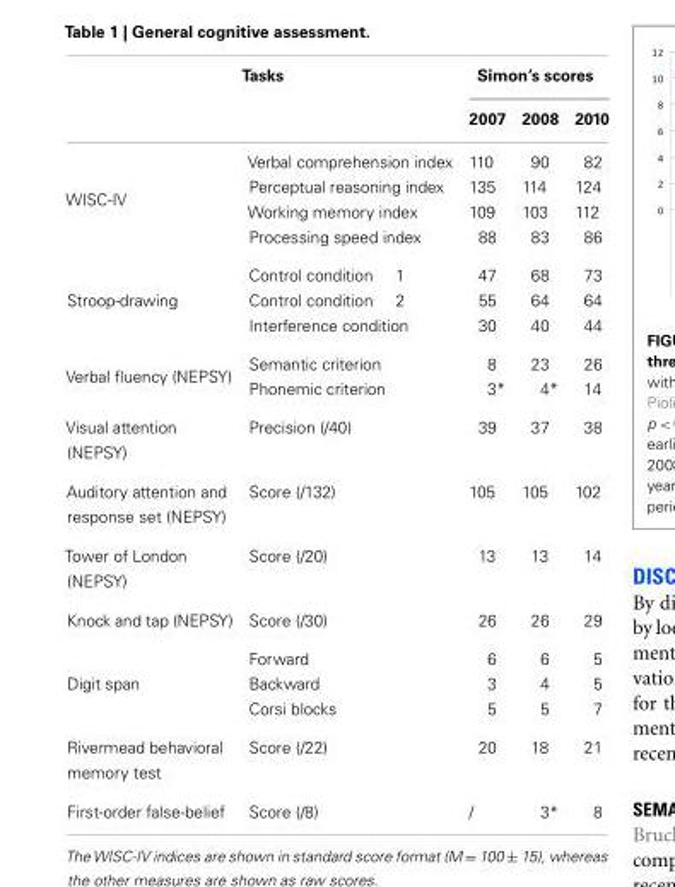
<table><thead><tr><td colspan="2">Tasks</td><td colspan="3">Simon’s scores</td></tr><tr><td></td><td></td><td>2007</td><td>2008</td><td>2010</td></tr></thead><tbody><tr><td rowspan="4">WISC-IV</td><td>Verbal comprehension index</td><td>110</td><td>90</td><td>82</td></tr><tr><td>Perceptual reasoning index</td><td>135</td><td>114</td><td>124</td></tr><tr><td>Working memory index</td><td>109</td><td>103</td><td>112</td></tr><tr><td>Processing speed index</td><td>88</td><td>83</td><td>86</td></tr><tr><td rowspan="3">Stroop-drawing</td><td>Control condition 1</td><td>47</td><td>68</td><td>73</td></tr><tr><td>Control condition 2</td><td>55</td><td>64</td><td>64</td></tr><tr><td>Interference condition</td><td>30</td><td>40</td><td>44</td></tr><tr><td rowspan="2">Verbal fluency (NEPSY)</td><td>Semantic criterion</td><td>8</td><td>23</td><td>26</td></tr><tr><td>Phonemic criterion</td><td>3*</td><td>4*</td><td>14</td></tr><tr><td>Visual attention (NEPSY)</td><td>Precision (/40)</td><td>39</td><td>37</td><td>38</td></tr><tr><td>Auditory attention and response set (NEPSY)</td><td>Score (/132)</td><td>105</td><td>105</td><td>102</td></tr><tr><td>Tower of London (NEPSY)</td><td>Score (/20)</td><td>13</td><td>13</td><td>14</td></tr><tr><td>Knock and tap (NEPSY)</td><td>Score (/30)</td><td>26</td><td>26</td><td>29</td></tr><tr><td rowspan="3">Digit span</td><td>Forward</td><td>6</td><td>6</td><td>5</td></tr><tr><td>Backward</td><td>3</td><td>4</td><td>5</td></tr><tr><td>Corsi blocks</td><td>5</td><td>5</td><td>7</td></tr><tr><td>Rivermead behavioral memory test</td><td>Score (/22)</td><td>20</td><td>18</td><td>21</td></tr><tr><td>First-order false-belief</td><td>Score (/8)</td><td>/</td><td>3*</td><td>8</td></tr></tbody></table>